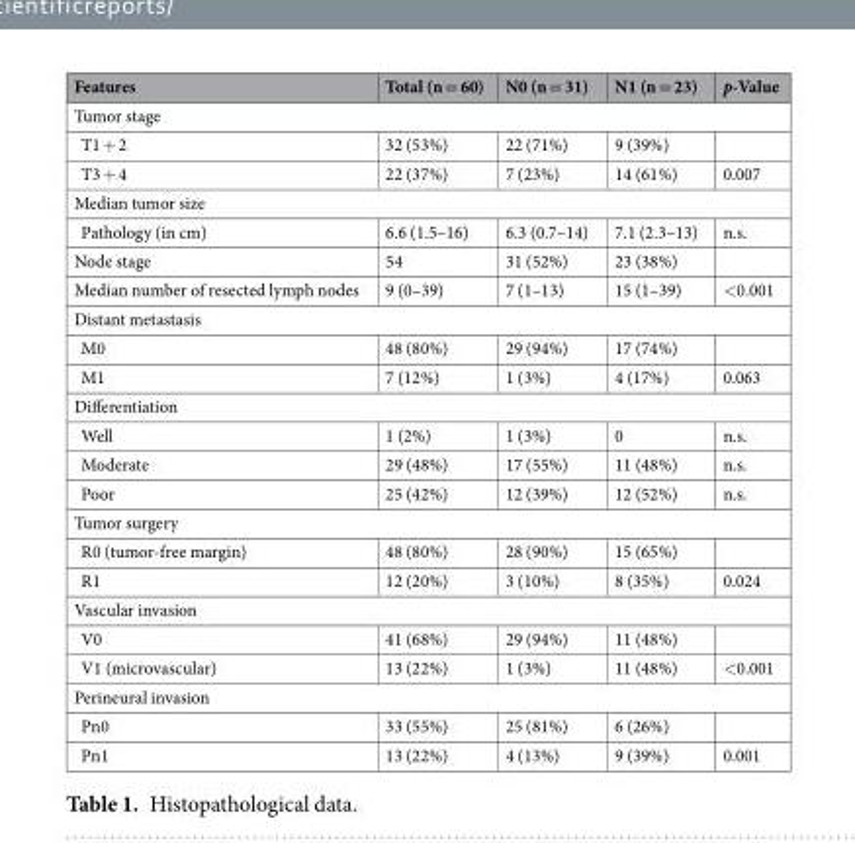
<table><thead><tr><td>Features</td><td>Total (n = 60)</td><td>N0 (n = 31)</td><td>N1 (n = 23)</td><td>p-Value</td></tr></thead><tbody><tr><td colspan="5">Tumor stage</td></tr><tr><td>T1 + 2</td><td>32 (53%)</td><td>22 (71%)</td><td>9 (39%)</td><td></td></tr><tr><td>T3 + 4</td><td>22 (37%)</td><td>7 (23%)</td><td>14 (61%)</td><td>0.007</td></tr><tr><td colspan="5">Median tumor size</td></tr><tr><td>Pathology (in cm)</td><td>6.6 (1.5–16)</td><td>6.3 (0.7–14)</td><td>7.1 (2.3–13)</td><td>n.s.</td></tr><tr><td>Node stage</td><td>54</td><td>31 (52%)</td><td>23 (38%)</td><td></td></tr><tr><td>Median number of resected lymph nodes</td><td>9 (0–39)</td><td>7 (1–13)</td><td>15 (1–39)</td><td>&lt;0.001</td></tr><tr><td colspan="5">Distant metastasis</td></tr><tr><td>M0</td><td>48 (80%)</td><td>29 (94%)</td><td>17 (74%)</td><td></td></tr><tr><td>M1</td><td>7 (12%)</td><td>1 (3%)</td><td>4 (17%)</td><td>0.063</td></tr><tr><td colspan="5">Differentiation</td></tr><tr><td>Well</td><td>1 (2%)</td><td>1 (3%)</td><td>0</td><td>n.s.</td></tr><tr><td>Moderate</td><td>29 (48%)</td><td>17 (55%)</td><td>11 (48%)</td><td>n.s.</td></tr><tr><td>Poor</td><td>25 (42%)</td><td>12 (39%)</td><td>12 (52%)</td><td>n.s.</td></tr><tr><td colspan="5">Tumor surgery</td></tr><tr><td>R0 (tumor-free margin)</td><td>48 (80%)</td><td>28 (90%)</td><td>15 (65%)</td><td></td></tr><tr><td>R1</td><td>12 (20%)</td><td>3 (10%)</td><td>8 (35%)</td><td>0.024</td></tr><tr><td colspan="5">Vascular invasion</td></tr><tr><td>V0</td><td>41 (68%)</td><td>29 (94%)</td><td>11 (48%)</td><td></td></tr><tr><td>V1 (microvascular)</td><td>13 (22%)</td><td>1 (3%)</td><td>11 (48%)</td><td>&lt;0.001</td></tr><tr><td colspan="5">Perineural invasion</td></tr><tr><td>Pn0</td><td>33 (55%)</td><td>25 (81%)</td><td>6 (26%)</td><td></td></tr><tr><td>Pn1</td><td>13 (22%)</td><td>4 (13%)</td><td>9 (39%)</td><td>0.001</td></tr></tbody></table>